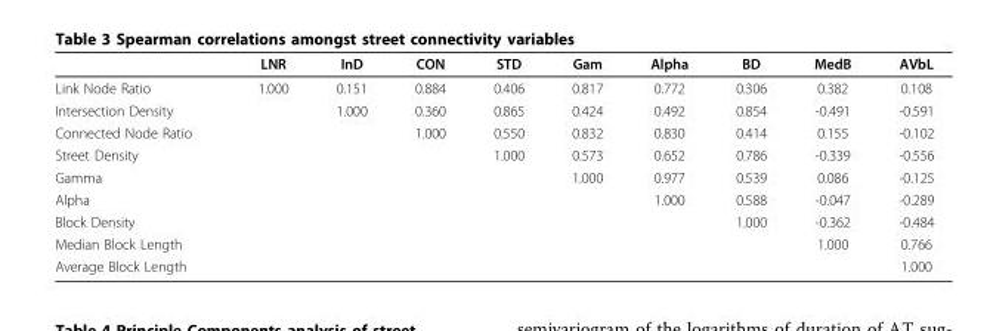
<table><thead><tr><td></td><td>LNR</td><td>InD</td><td>CON</td><td>STD</td><td>Gam</td><td>Alpha</td><td>BD</td><td>MedB</td><td>AVbL</td></tr></thead><tbody><tr><td>Link Node Ratio</td><td>1.000</td><td>0.151</td><td>0.884</td><td>0.406</td><td>0.817</td><td>0.772</td><td>0.306</td><td>0.382</td><td>0.108</td></tr><tr><td>Intersection Density</td><td></td><td>1.000</td><td>0.360</td><td>0.865</td><td>0.424</td><td>0.492</td><td>0.854</td><td>-0.491</td><td>-0.591</td></tr><tr><td>Connected Node Ratio</td><td></td><td></td><td>1.000</td><td>0.550</td><td>0.832</td><td>0.830</td><td>0.414</td><td>0.155</td><td>-0.102</td></tr><tr><td>Street Density</td><td></td><td></td><td></td><td>1.000</td><td>0.573</td><td>0.652</td><td>0.786</td><td>-0.339</td><td>-0.556</td></tr><tr><td>Gamma</td><td></td><td></td><td></td><td></td><td>1.000</td><td>0.977</td><td>0.539</td><td>0.086</td><td>-0.125</td></tr><tr><td>Alpha</td><td></td><td></td><td></td><td></td><td></td><td>1.000</td><td>0.588</td><td>-0.047</td><td>-0.289</td></tr><tr><td>Block Density</td><td></td><td></td><td></td><td></td><td></td><td></td><td>1.000</td><td>-0.362</td><td>-0.484</td></tr><tr><td>Median Block Length</td><td></td><td></td><td></td><td></td><td></td><td></td><td></td><td>1.000</td><td>0.766</td></tr><tr><td>Average Block Length</td><td></td><td></td><td></td><td></td><td></td><td></td><td></td><td></td><td>1.000</td></tr></tbody></table>